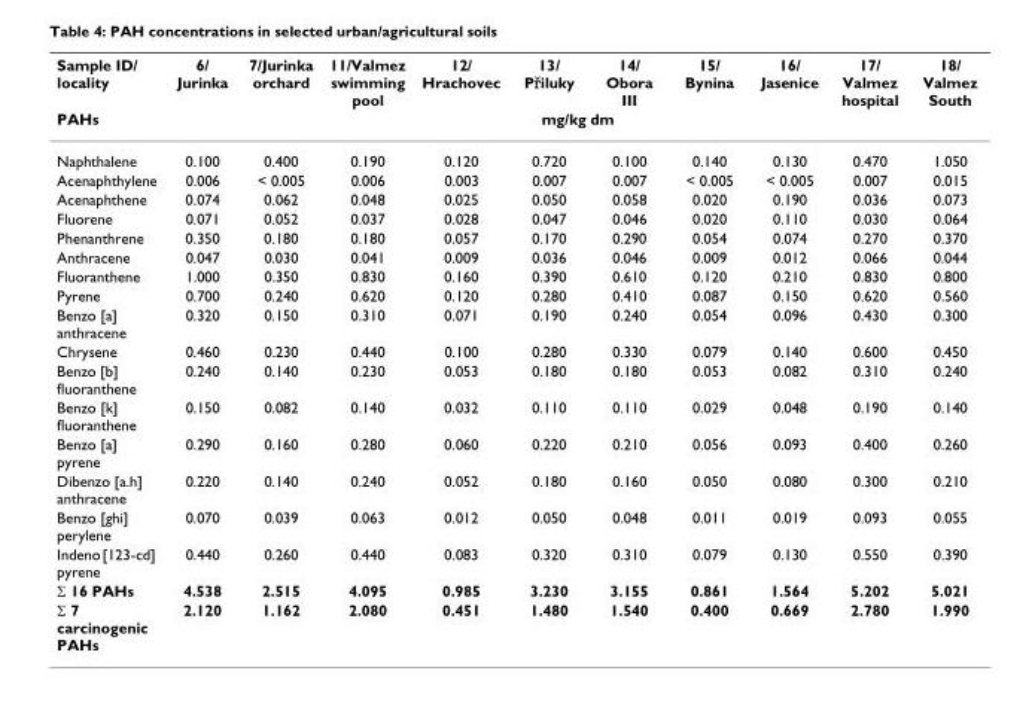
<table><thead><tr><td rowspan="2">Sample ID/ locality PAHs</td><td>6/ Jurinka</td><td>7/Jurinka orchard</td><td>11/Valmez swimming pool</td><td>12/ Hrachovec</td><td>13/ Přiluky</td><td>14/ Obora III</td><td>15/ Bynina</td><td>16/ Jasenice</td><td>17/ Valmez hospital</td><td>18/ Valmez South</td></tr><tr><td colspan="10">mg/kg dm</td></tr></thead><tbody><tr><td>Naphthalene</td><td>0.100</td><td>0.400</td><td>0.190</td><td>0.120</td><td>0.720</td><td>0.100</td><td>0.140</td><td>0.130</td><td>0.470</td><td>1.050</td></tr><tr><td>Acenaphthylene</td><td>0.006</td><td>&lt; 0.005</td><td>0.006</td><td>0.003</td><td>0.007</td><td>0.007</td><td>&lt; 0.005</td><td>&lt; 0.005</td><td>0.007</td><td>0.015</td></tr><tr><td>Acenaphthene</td><td>0.074</td><td>0.062</td><td>0.048</td><td>0.025</td><td>0.050</td><td>0.058</td><td>0.020</td><td>0.190</td><td>0.036</td><td>0.073</td></tr><tr><td>Fluorene</td><td>0.071</td><td>0.052</td><td>0.037</td><td>0.028</td><td>0.047</td><td>0.046</td><td>0.020</td><td>0.110</td><td>0.030</td><td>0.064</td></tr><tr><td>Phenanthrene</td><td>0.350</td><td>0.180</td><td>0.180</td><td>0.057</td><td>0.170</td><td>0.290</td><td>0.054</td><td>0.074</td><td>0.270</td><td>0.370</td></tr><tr><td>Anthracene</td><td>0.047</td><td>0.030</td><td>0.041</td><td>0.009</td><td>0.036</td><td>0.046</td><td>0.009</td><td>0.012</td><td>0.066</td><td>0.044</td></tr><tr><td>Fluoranthene</td><td>1.000</td><td>0.350</td><td>0.830</td><td>0.160</td><td>0.390</td><td>0.610</td><td>0.120</td><td>0.210</td><td>0.830</td><td>0.800</td></tr><tr><td>Pyrene</td><td>0.700</td><td>0.240</td><td>0.620</td><td>0.120</td><td>0.280</td><td>0.410</td><td>0.087</td><td>0.150</td><td>0.620</td><td>0.560</td></tr><tr><td>Benzo [a] anthracene</td><td>0.320</td><td>0.150</td><td>0.310</td><td>0.071</td><td>0.190</td><td>0.240</td><td>0.054</td><td>0.096</td><td>0.430</td><td>0.300</td></tr><tr><td>Chrysene</td><td>0.460</td><td>0.230</td><td>0.440</td><td>0.100</td><td>0.280</td><td>0.330</td><td>0.079</td><td>0.140</td><td>0.600</td><td>0.450</td></tr><tr><td>Benzo [b] fluoranthene</td><td>0.240</td><td>0.140</td><td>0.230</td><td>0.053</td><td>0.180</td><td>0.180</td><td>0.053</td><td>0.082</td><td>0.310</td><td>0.240</td></tr><tr><td>Benzo [k] fluoranthene</td><td>0.150</td><td>0.082</td><td>0.140</td><td>0.032</td><td>0.110</td><td>0.110</td><td>0.029</td><td>0.048</td><td>0.190</td><td>0.140</td></tr><tr><td>Benzo [a] pyrene</td><td>0.290</td><td>0.160</td><td>0.280</td><td>0.060</td><td>0.220</td><td>0.210</td><td>0.056</td><td>0.093</td><td>0.400</td><td>0.260</td></tr><tr><td>Dibenzo [a.h] anthracene</td><td>0.220</td><td>0.140</td><td>0.240</td><td>0.052</td><td>0.180</td><td>0.160</td><td>0.050</td><td>0.080</td><td>0.300</td><td>0.210</td></tr><tr><td>Benzo [ghi] perylene</td><td>0.070</td><td>0.039</td><td>0.063</td><td>0.012</td><td>0.050</td><td>0.048</td><td>0.011</td><td>0.019</td><td>0.093</td><td>0.055</td></tr><tr><td>Indeno [123-cd] pyrene</td><td>0.440</td><td>0.260</td><td>0.440</td><td>0.083</td><td>0.320</td><td>0.310</td><td>0.079</td><td>0.130</td><td>0.550</td><td>0.390</td></tr><tr><td>Σ 16 PAHs</td><td>4.538</td><td>2.515</td><td>4.095</td><td>0.985</td><td>3.230</td><td>3.155</td><td>0.861</td><td>1.564</td><td>5.202</td><td>5.021</td></tr><tr><td>Σ 7 carcinogenic PAHs</td><td>2.120</td><td>1.162</td><td>2.080</td><td>0.451</td><td>1.480</td><td>1.540</td><td>0.400</td><td>0.669</td><td>2.780</td><td>1.990</td></tr></tbody></table>